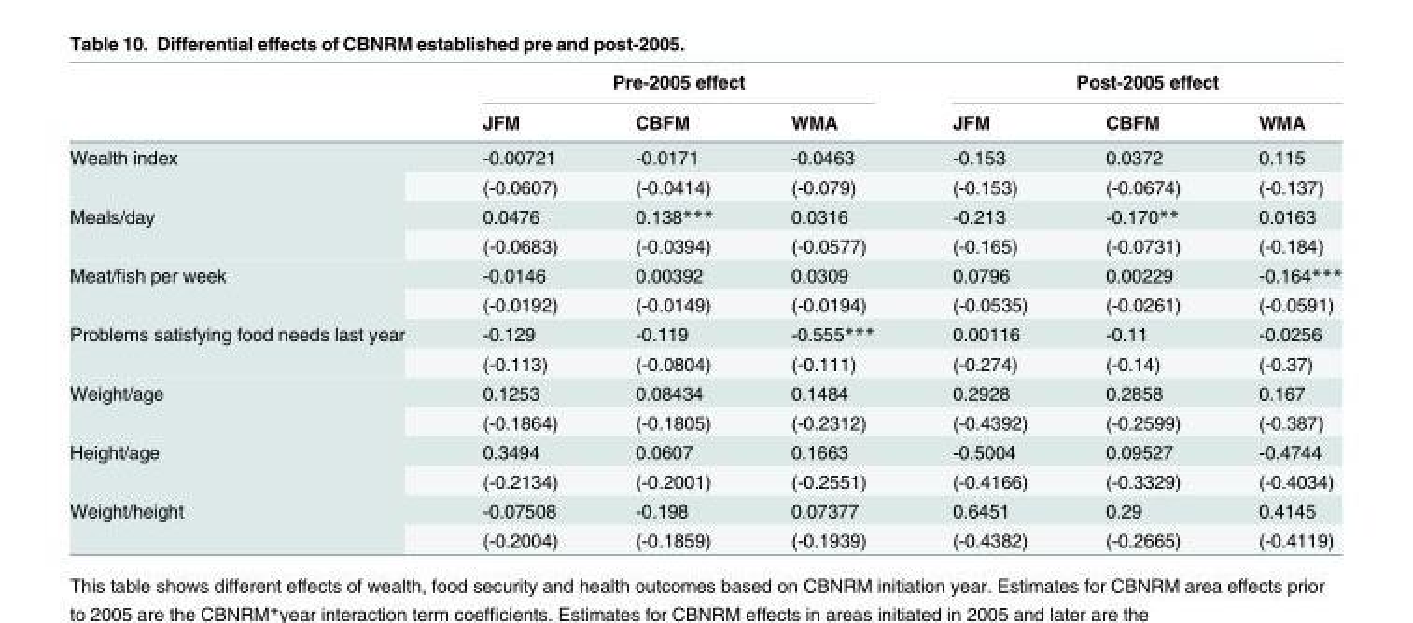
<table><thead><tr><td rowspan="2"></td><td colspan="3">Pre-2005 effect</td><td colspan="3">Post-2005 effect</td></tr><tr><td>JFM</td><td>CBFM</td><td>WMA</td><td>JFM</td><td>CBFM</td><td>WMA</td></tr></thead><tbody><tr><td rowspan="2">Wealth index</td><td>-0.00721</td><td>-0.0171</td><td>-0.0463</td><td>-0.153</td><td>0.0372</td><td>0.115</td></tr><tr><td>(-0.0607)</td><td>(-0.0414)</td><td>(-0.079)</td><td>(-0.153)</td><td>(-0.0674)</td><td>(-0.137)</td></tr><tr><td rowspan="2">Meals/day</td><td>0.0476</td><td>0.138***</td><td>0.0316</td><td>-0.213</td><td>-0.170**</td><td>0.0163</td></tr><tr><td>(-0.0683)</td><td>(-0.0394)</td><td>(-0.0577)</td><td>(-0.165)</td><td>(-0.0731)</td><td>(-0.184)</td></tr><tr><td rowspan="2">Meat/fish per week</td><td>-0.0146</td><td>0.00392</td><td>0.0309</td><td>0.0796</td><td>0.00229</td><td>-0.164***</td></tr><tr><td>(-0.0192)</td><td>(-0.0149)</td><td>(-0.0194)</td><td>(-0.0535)</td><td>(-0.0261)</td><td>(-0.0591)</td></tr><tr><td rowspan="2">Problems satisfying food needs last year</td><td>-0.129</td><td>-0.119</td><td>-0.555***</td><td>0.00116</td><td>-0.11</td><td>-0.0256</td></tr><tr><td>(-0.113)</td><td>(-0.0804)</td><td>(-0.111)</td><td>(-0.274)</td><td>(-0.14)</td><td>(-0.37)</td></tr><tr><td rowspan="2">Weight/age</td><td>0.1253</td><td>0.08434</td><td>0.1484</td><td>0.2928</td><td>0.2858</td><td>0.167</td></tr><tr><td>(-0.1864)</td><td>(-0.1805)</td><td>(-0.2312)</td><td>(-0.4392)</td><td>(-0.2599)</td><td>(-0.387)</td></tr><tr><td rowspan="2">Height/age</td><td>0.3494</td><td>0.0607</td><td>0.1663</td><td>-0.5004</td><td>0.09527</td><td>-0.4744</td></tr><tr><td>(-0.2134)</td><td>(-0.2001)</td><td>(-0.2551)</td><td>(-0.4166)</td><td>(-0.3329)</td><td>(-0.4034)</td></tr><tr><td rowspan="2">Weight/height</td><td>-0.07508</td><td>-0.198</td><td>0.07377</td><td>0.6451</td><td>0.29</td><td>0.4145</td></tr><tr><td>(-0.2004)</td><td>(-0.1859)</td><td>(-0.1939)</td><td>(-0.4382)</td><td>(-0.2665)</td><td>(-0.4119)</td></tr></tbody></table>